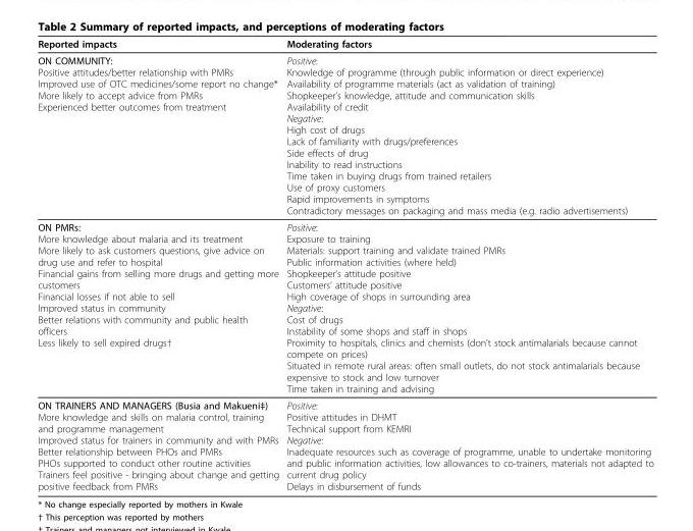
<table><thead><tr><td>Reported impacts</td><td>Moderating factors</td></tr></thead><tbody><tr><td>ON COMMUNITY: Positive attitudes/better relationship with PMRs Improved use of OTC medicines/some report no change* More likely to accept advice from PMRs Experienced better outcomes from treatment</td><td>Positive: Knowledge of programme (through public information or direct experience) Availability of programme materials (act as validation of training) Shopkeeper’s knowledge, attitude and communication skills Availability of credit Negative: High cost of drugs Lack of familiarity with drugs/preferences Side effects of drug Inability to read instructions Time taken in buying drugs from trained retailers Use of proxy customers Rapid improvements in symptoms Contradictory messages on packaging and mass media (e.g. radio advertisements)</td></tr><tr><td>ON PMRs: More knowledge about malaria and its treatment More likely to ask customers questions, give advice on drug use and refer to hospital Financial gains from selling more drugs and getting more customers Financial losses if not able to sell Improved status in community Better relations with community and public health officers Less likely to sell expired drugs†</td><td>Positive: Exposure to training Materials: support training and validate trained PMRs Public information activities (where held) Shopkeeper’s attitude positive Customers’ attitude positive High coverage of shops in surrounding area Negative: Cost of drugs Instability of some shops and staff in shops Proximity to hospitals, clinics and chemists (don’t stock antimalarials because cannot compete on prices) Situated in remote rural areas: often small outlets, do not stock antimalarials because expensive to stock and low turnover Time taken in training and advising</td></tr><tr><td>ON TRAINERS AND MANAGERS (Busia and Makueni‡) More knowledge and skills on malaria control, training and programme management Improved status for trainers in community and with PMRs Better relationship between PHOs and PMRs PHOs supported to conduct other routine activities Trainers feel positive - bringing about change and getting positive feedback from PMRs</td><td>Positive: Positive attitudes in DHMT Technical support from KEMRI Negative: Inadequate resources such as coverage of programme, unable to undertake monitoring and public information activities, low allowances to co-trainers, materials not adapted to current drug policy Delays in disbursement of funds</td></tr></tbody></table>